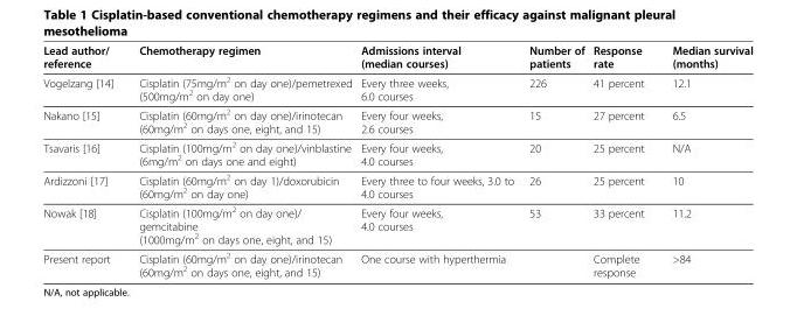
<table><thead><tr><td>Lead author/ reference</td><td>Chemotherapy regimen</td><td>Admissions interval (median courses)</td><td>Number of patients</td><td>Response rate</td><td>Median survival (months)</td></tr></thead><tbody><tr><td>Vogelzang [14]</td><td>Cisplatin (75mg/m<sup>2</sup> on day one)/pemetrexed (500mg/m<sup>2</sup> on day one)</td><td>Every three weeks, 6.0 courses</td><td>226</td><td>41 percent</td><td>12.1</td></tr><tr><td>Nakano [15]</td><td>Cisplatin (60mg/m<sup>2</sup> on day one)/irinotecan (60mg/m<sup>2</sup> on days one, eight, and 15)</td><td>Every four weeks, 2.6 courses</td><td>15</td><td>27 percent</td><td>6.5</td></tr><tr><td>Tsavaris [16]</td><td>Cisplatin (100mg/m<sup>2</sup> on day one)/vinblastine (6mg/m<sup>2</sup> on days one and eight)</td><td>Every four weeks, 4.0 courses</td><td>20</td><td>25 percent</td><td>N/A</td></tr><tr><td>Ardizzoni [17]</td><td>Cisplatin (60mg/m<sup>2</sup> on day 1)/doxorubicin (60mg/m<sup>2</sup> on day one)</td><td>Every three to four weeks, 3.0 to 4.0 courses</td><td>26</td><td>25 percent</td><td>10</td></tr><tr><td>Nowak [18]</td><td>Cisplatin (100mg/m<sup>2</sup> on day one)/ gemcitabine (1000mg/m<sup>2</sup> on days one, eight, and 15)</td><td>Every four weeks, 4.0 courses</td><td>53</td><td>33 percent</td><td>11.2</td></tr><tr><td>Present report</td><td>Cisplatin (60mg/m<sup>2</sup> on day one)/irinotecan (60mg/m<sup>2</sup> on days one, eight, and 15)</td><td>One course with hyperthermia</td><td></td><td>Complete response</td><td>&gt;84</td></tr></tbody></table>